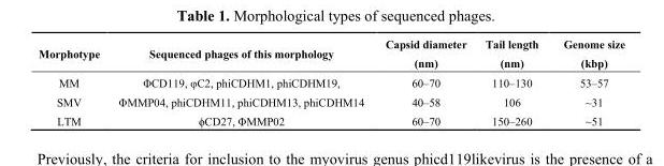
<table><thead><tr><td>Morphotype</td><td>Sequenced phages of this morphology</td><td>Capsid diameter (nm)</td><td>Tail length (nm)</td><td>Genome size (kbp)</td></tr></thead><tbody><tr><td>MM</td><td>ΦCD119, φC2, phiCDHM1, phiCDHM19,</td><td>60–70</td><td>110–130</td><td>53–57</td></tr><tr><td>SMV</td><td>ΦMMP04, phiCDHM11, phiCDHM13, phiCDHM14</td><td>40–58</td><td>106</td><td>~31</td></tr><tr><td>LTM</td><td>ϕCD27, ΦMMP02</td><td>60–70</td><td>150–260</td><td>~51</td></tr></tbody></table>